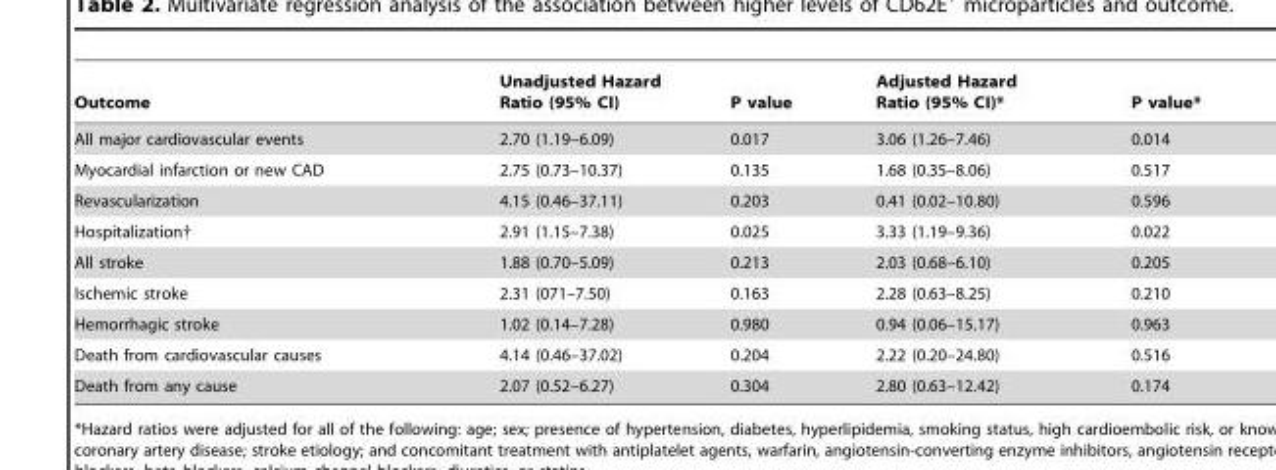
<table><thead><tr><td>Outcome</td><td>Unadjusted Hazard Ratio (95% CI)</td><td>P value</td><td>Adjusted Hazard Ratio (95% CI)*</td><td>P value*</td></tr></thead><tbody><tr><td>All major cardiovascular events</td><td>2.70 (1.19–6.09)</td><td>0.017</td><td>3.06 (1.26–7.46)</td><td>0.014</td></tr><tr><td>Myocardial infarction or new CAD</td><td>2.75 (0.73–10.37)</td><td>0.135</td><td>1.68 (0.35–8.06)</td><td>0.517</td></tr><tr><td>Revascularization</td><td>4.15 (0.46–37.11)</td><td>0.203</td><td>0.41 (0.02–10.80)</td><td>0.596</td></tr><tr><td>Hospitalization†</td><td>2.91 (1.15–7.38)</td><td>0.025</td><td>3.33 (1.19–9.36)</td><td>0.022</td></tr><tr><td>All stroke</td><td>1.88 (0.70–5.09)</td><td>0.213</td><td>2.03 (0.68–6.10)</td><td>0.205</td></tr><tr><td>Ischemic stroke</td><td>2.31 (071–7.50)</td><td>0.163</td><td>2.28 (0.63–8.25)</td><td>0.210</td></tr><tr><td>Hemorrhagic stroke</td><td>1.02 (0.14–7.28)</td><td>0.980</td><td>0.94 (0.06–15.17)</td><td>0.963</td></tr><tr><td>Death from cardiovascular causes</td><td>4.14 (0.46–37.02)</td><td>0.204</td><td>2.22 (0.20–24.80)</td><td>0.516</td></tr><tr><td>Death from any cause</td><td>2.07 (0.52–6.27)</td><td>0.304</td><td>2.80 (0.63–12.42)</td><td>0.174</td></tr></tbody></table>